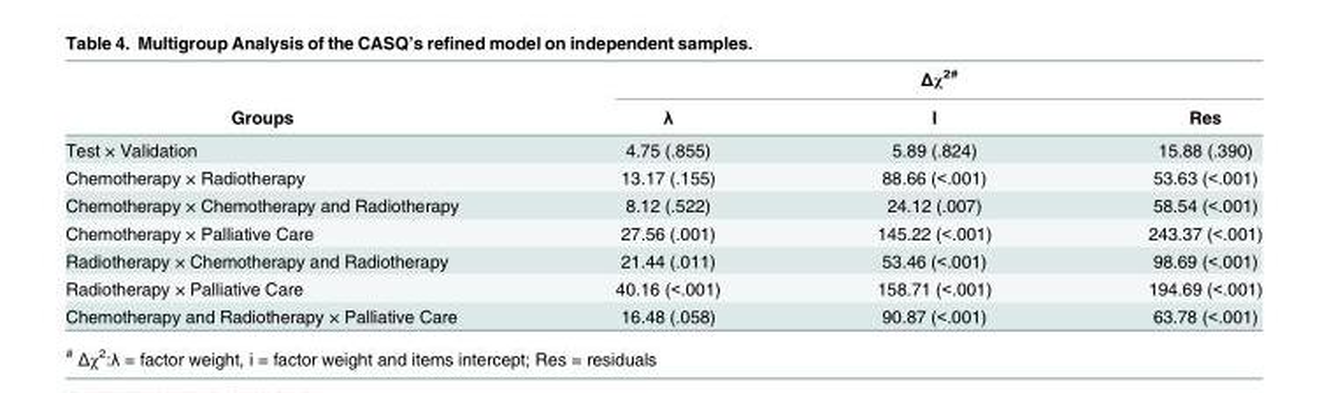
<table><thead><tr><td rowspan="2">Groups</td><td colspan="3">Δχ<sup>2#</sup></td></tr><tr><td>λ</td><td>I</td><td>Res</td></tr></thead><tbody><tr><td>Test × Validation</td><td>4.75 (.855)</td><td>5.89 (.824)</td><td>15.88 (.390)</td></tr><tr><td>Chemotherapy × Radiotherapy</td><td>13.17 (.155)</td><td>88.66 (&lt;.001)</td><td>53.63 (&lt;.001)</td></tr><tr><td>Chemotherapy × Chemotherapy and Radiotherapy</td><td>8.12 (.522)</td><td>24.12 (.007)</td><td>58.54 (&lt;.001)</td></tr><tr><td>Chemotherapy × Palliative Care</td><td>27.56 (.001)</td><td>145.22 (&lt;.001)</td><td>243.37 (&lt;.001)</td></tr><tr><td>Radiotherapy × Chemotherapy and Radiotherapy</td><td>21.44 (.011)</td><td>53.46 (&lt;.001)</td><td>98.69 (&lt;.001)</td></tr><tr><td>Radiotherapy × Palliative Care</td><td>40.16 (&lt;.001)</td><td>158.71 (&lt;.001)</td><td>194.69 (&lt;.001)</td></tr><tr><td>Chemotherapy and Radiotherapy × Palliative Care</td><td>16.48 (.058)</td><td>90.87 (&lt;.001)</td><td>63.78 (&lt;.001)</td></tr></tbody></table>